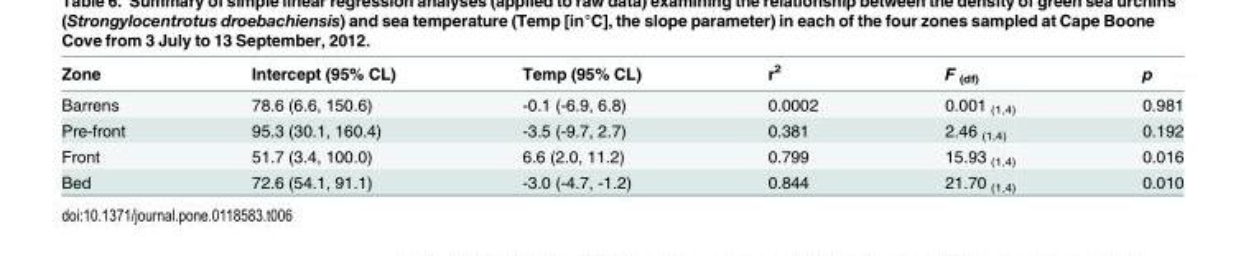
<table><thead><tr><td>Zone</td><td>Intercept (95% CL)</td><td>Temp (95% CL)</td><td>r<sup>2</sup></td><td>F <sub>(df)</sub></td><td>p</td></tr></thead><tbody><tr><td>Barrens</td><td>78.6 (6.6, 150.6)</td><td>-0.1 (-6.9, 6.8)</td><td>0.0002</td><td>0.001 <sub>(1,4)</sub></td><td>0.981</td></tr><tr><td>Pre-front</td><td>95.3 (30.1, 160.4)</td><td>-3.5 (-9.7, 2.7)</td><td>0.381</td><td>2.46 <sub>(1,4)</sub></td><td>0.192</td></tr><tr><td>Front</td><td>51.7 (3.4, 100.0)</td><td>6.6 (2.0, 11.2)</td><td>0.799</td><td>15.93 <sub>(1,4)</sub></td><td>0.016</td></tr><tr><td>Bed</td><td>72.6 (54.1, 91.1)</td><td>-3.0 (-4.7, -1.2)</td><td>0.844</td><td>21.70 <sub>(1,4)</sub></td><td>0.010</td></tr></tbody></table>